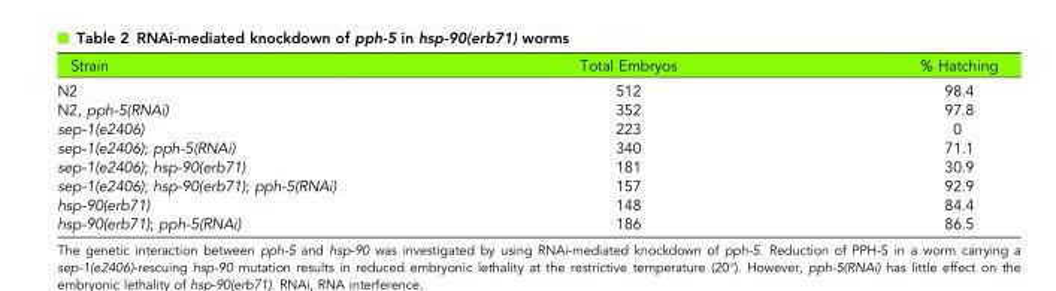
<table><thead><tr><td>Strain</td><td>Total Embryos</td><td>% Hatching</td></tr></thead><tbody><tr><td>N2</td><td>512</td><td>98.4</td></tr><tr><td>N2, pph-5(RNAi)</td><td>352</td><td>97.8</td></tr><tr><td>sep-1(e2406)</td><td>223</td><td>0</td></tr><tr><td>sep-1(e2406); pph-5(RNAi)</td><td>340</td><td>71.1</td></tr><tr><td>sep-1(e2406); hsp-90(erb71)</td><td>181</td><td>30.9</td></tr><tr><td>sep-1(e2406); hsp-90(erb71); pph-5(RNAi)</td><td>157</td><td>92.9</td></tr><tr><td>hsp-90(erb71)</td><td>148</td><td>84.4</td></tr><tr><td>hsp-90(erb71); pph-5(RNAi)</td><td>186</td><td>86.5</td></tr></tbody></table>